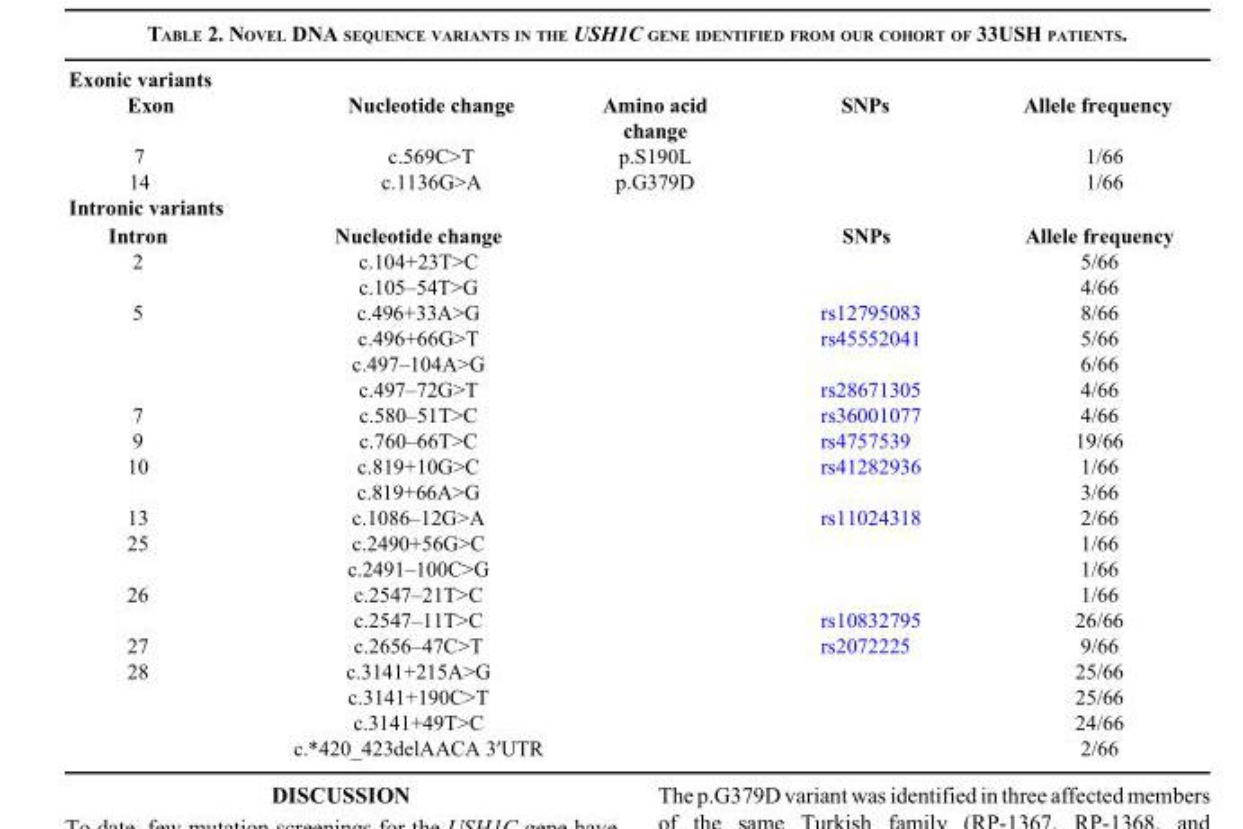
<table><thead><tr><td colspan="5">Exonic variants</td></tr><tr><td>Exon</td><td>Nucleotide change</td><td>Amino acid change</td><td>SNPs</td><td>Allele frequency</td></tr></thead><tbody><tr><td>7</td><td>c.569C&gt;T</td><td>p.S190L</td><td></td><td>1/66</td></tr><tr><td>14</td><td>c.1136G&gt;A</td><td>p.G379D</td><td></td><td>1/66</td></tr><tr><td colspan="5">Intronic variants</td></tr><tr><td>Intron</td><td>Nucleotide change</td><td></td><td>SNPs</td><td>Allele frequency</td></tr><tr><td rowspan="2">2</td><td>c.104+23T&gt;C</td><td></td><td></td><td>5/66</td></tr><tr><td>c.105–54T&gt;G</td><td></td><td></td><td>4/66</td></tr><tr><td rowspan="4">5</td><td>c.496+33A&gt;G</td><td></td><td>rs12795083</td><td>8/66</td></tr><tr><td>c.496+66G&gt;T</td><td></td><td>rs45552041</td><td>5/66</td></tr><tr><td>c.497–104A&gt;G</td><td></td><td></td><td>6/66</td></tr><tr><td>c.497–72G&gt;T</td><td></td><td>rs28671305</td><td>4/66</td></tr><tr><td>7</td><td>c.580–51T&gt;C</td><td></td><td>rs36001077</td><td>4/66</td></tr><tr><td>9</td><td>c.760–66T&gt;C</td><td></td><td>rs4757539</td><td>19/66</td></tr><tr><td rowspan="2">10</td><td>c.819+10G&gt;C</td><td></td><td>rs41282936</td><td>1/66</td></tr><tr><td>c.819+66A&gt;G</td><td></td><td></td><td>3/66</td></tr><tr><td>13</td><td>c.1086–12G&gt;A</td><td></td><td>rs11024318</td><td>2/66</td></tr><tr><td rowspan="2">25</td><td>c.2490+56G&gt;C</td><td></td><td></td><td>1/66</td></tr><tr><td>c.2491–100C&gt;G</td><td></td><td></td><td>1/66</td></tr><tr><td rowspan="2">26</td><td>c.2547–21T&gt;C</td><td></td><td></td><td>1/66</td></tr><tr><td>c.2547–11T&gt;C</td><td></td><td>rs10832795</td><td>26/66</td></tr><tr><td>27</td><td>c.2656–47C&gt;T</td><td></td><td>rs2072225</td><td>9/66</td></tr><tr><td rowspan="4">28</td><td>c.3141+215A&gt;G</td><td></td><td></td><td>25/66</td></tr><tr><td>c.3141+190C&gt;T</td><td></td><td></td><td>25/66</td></tr><tr><td>c.3141+49T&gt;C</td><td></td><td></td><td>24/66</td></tr><tr><td>c.*420_423delAACA 3′UTR</td><td></td><td></td><td>2/66</td></tr></tbody></table>